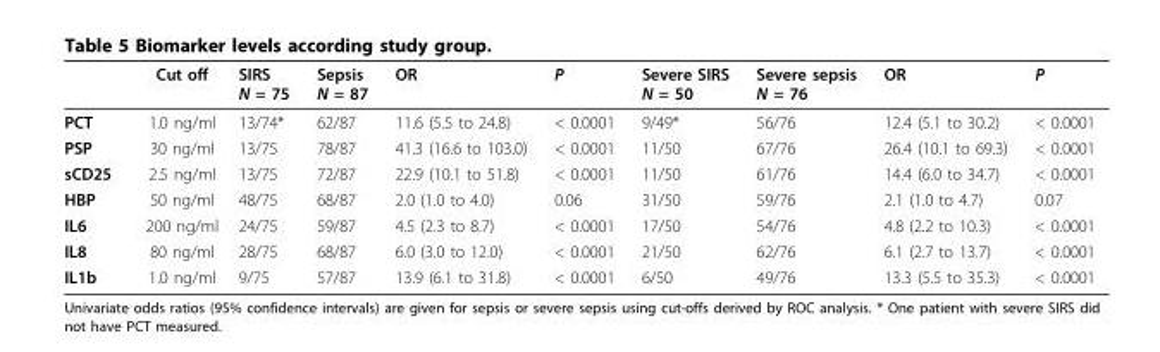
<table><thead><tr><td></td><td>Cut off</td><td>SIRS N = 75</td><td>Sepsis N = 87</td><td>OR</td><td>P</td><td>Severe SIRS N = 50</td><td>Severe sepsis N = 76</td><td>OR</td><td>P</td></tr></thead><tbody><tr><td>PCT</td><td>1.0 ng/ml</td><td>13/74*</td><td>62/87</td><td>11.6 (5.5 to 24.8)</td><td>&lt; 0.0001</td><td>9/49*</td><td>56/76</td><td>12.4 (5.1 to 30.2)</td><td>&lt; 0.0001</td></tr><tr><td>PSP</td><td>30 ng/ml</td><td>13/75</td><td>78/87</td><td>41.3 (16.6 to 103.0)</td><td>&lt; 0.0001</td><td>11/50</td><td>67/76</td><td>26.4 (10.1 to 69.3)</td><td>&lt; 0.0001</td></tr><tr><td>sCD25</td><td>2.5 ng/ml</td><td>13/75</td><td>72/87</td><td>22.9 (10.1 to 51.8)</td><td>&lt; 0.0001</td><td>11/50</td><td>61/76</td><td>14.4 (6.0 to 34.7)</td><td>&lt; 0.0001</td></tr><tr><td>HBP</td><td>50 ng/ml</td><td>48/75</td><td>68/87</td><td>2.0 (1.0 to 4.0)</td><td>0.06</td><td>31/50</td><td>59/76</td><td>2.1 (1.0 to 4.7)</td><td>0.07</td></tr><tr><td>IL6</td><td>200 ng/ml</td><td>24/75</td><td>59/87</td><td>4.5 (2.3 to 8.7)</td><td>&lt; 0.0001</td><td>17/50</td><td>54/76</td><td>4.8 (2.2 to 10.3)</td><td>&lt; 0.0001</td></tr><tr><td>IL8</td><td>80 ng/ml</td><td>28/75</td><td>68/87</td><td>6.0 (3.0 to 12.0)</td><td>&lt; 0.0001</td><td>21/50</td><td>62/76</td><td>6.1 (2.7 to 13.7)</td><td>&lt; 0.0001</td></tr><tr><td>IL1b</td><td>1.0 ng/ml</td><td>9/75</td><td>57/87</td><td>13.9 (6.1 to 31.8)</td><td>&lt; 0.0001</td><td>6/50</td><td>49/76</td><td>13.3 (5.5 to 35.3)</td><td>&lt; 0.0001</td></tr></tbody></table>